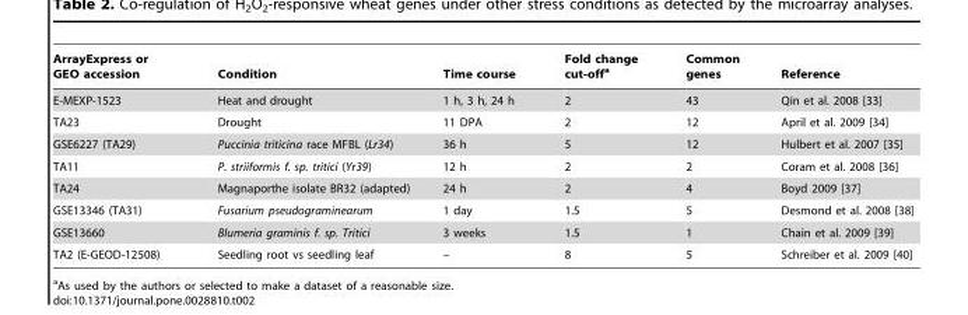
<table><thead><tr><td>ArrayExpress or GEO accession</td><td>Condition</td><td>Time course</td><td>Fold change cut-off<sup>a</sup></td><td>Common genes</td><td>Reference</td></tr></thead><tbody><tr><td>E-MEXP-1523</td><td>Heat and drought</td><td>1 h, 3 h, 24 h</td><td>2</td><td>43</td><td>Qin et al. 2008 [33]</td></tr><tr><td>TA23</td><td>Drought</td><td>11 DPA</td><td>2</td><td>12</td><td>April et al. 2009 [34]</td></tr><tr><td>GSE6227 (TA29)</td><td>Puccinia triticina race MFBL (Lr34)</td><td>36 h</td><td>5</td><td>12</td><td>Hulbert et al. 2007 [35]</td></tr><tr><td>TA11</td><td>P. striiformis f. sp. tritici (Yr39)</td><td>12 h</td><td>2</td><td>2</td><td>Coram et al. 2008 [36]</td></tr><tr><td>TA24</td><td>Magnaporthe isolate BR32 (adapted)</td><td>24 h</td><td>2</td><td>4</td><td>Boyd 2009 [37]</td></tr><tr><td>GSE13346 (TA31)</td><td>Fusarium pseudograminearum</td><td>1 day</td><td>1.5</td><td>5</td><td>Desmond et al. 2008 [38]</td></tr><tr><td>GSE13660</td><td>Blumeria graminis f. sp. Tritici</td><td>3 weeks</td><td>1.5</td><td>1</td><td>Chain et al. 2009 [39]</td></tr><tr><td>TA2 (E-GEOD-12508)</td><td>Seedling root vs seedling leaf</td><td>–</td><td>8</td><td>5</td><td>Schreiber et al. 2009 [40]</td></tr></tbody></table>